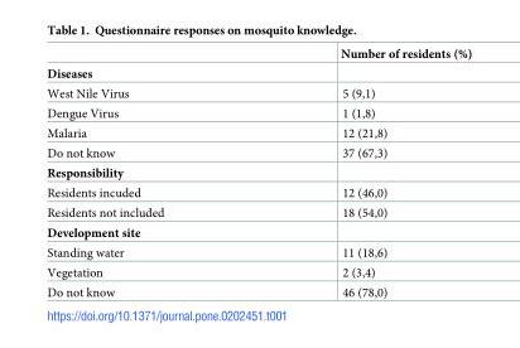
<table><thead><tr><td></td><td>Number of residents (%)</td></tr></thead><tbody><tr><td colspan="2">Diseases</td></tr><tr><td>West Nile Virus</td><td>5 (9,1)</td></tr><tr><td>Dengue Virus</td><td>1 (1,8)</td></tr><tr><td>Malaria</td><td>12 (21,8)</td></tr><tr><td>Do not know</td><td>37 (67,3)</td></tr><tr><td colspan="2">Responsibility</td></tr><tr><td>Residents incuded</td><td>12 (46,0)</td></tr><tr><td>Residents not included</td><td>18 (54,0)</td></tr><tr><td colspan="2">Development site</td></tr><tr><td>Standing water</td><td>11 (18,6)</td></tr><tr><td>Vegetation</td><td>2 (3,4)</td></tr><tr><td>Do not know</td><td>46 (78,0)</td></tr></tbody></table>